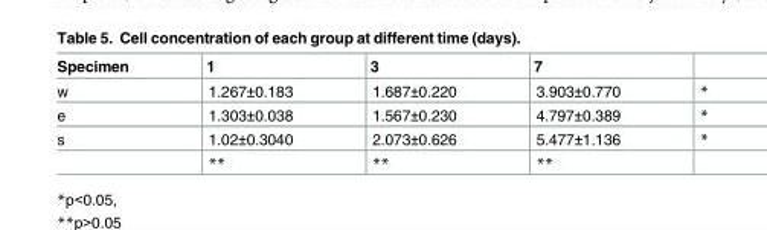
<table><thead><tr><td>Specimen</td><td>1</td><td>3</td><td>7</td><td></td></tr></thead><tbody><tr><td>w</td><td>1.267±0.183</td><td>1.687±0.220</td><td>3.903±0.770</td><td>*</td></tr><tr><td>e</td><td>1.303±0.038</td><td>1.567±0.230</td><td>4.797±0.389</td><td>*</td></tr><tr><td rowspan="2">s</td><td>1.02±0.3040</td><td>2.073±0.626</td><td>5.477±1.136</td><td>*</td></tr><tr><td>**</td><td>**</td><td>**</td><td></td></tr></tbody></table>